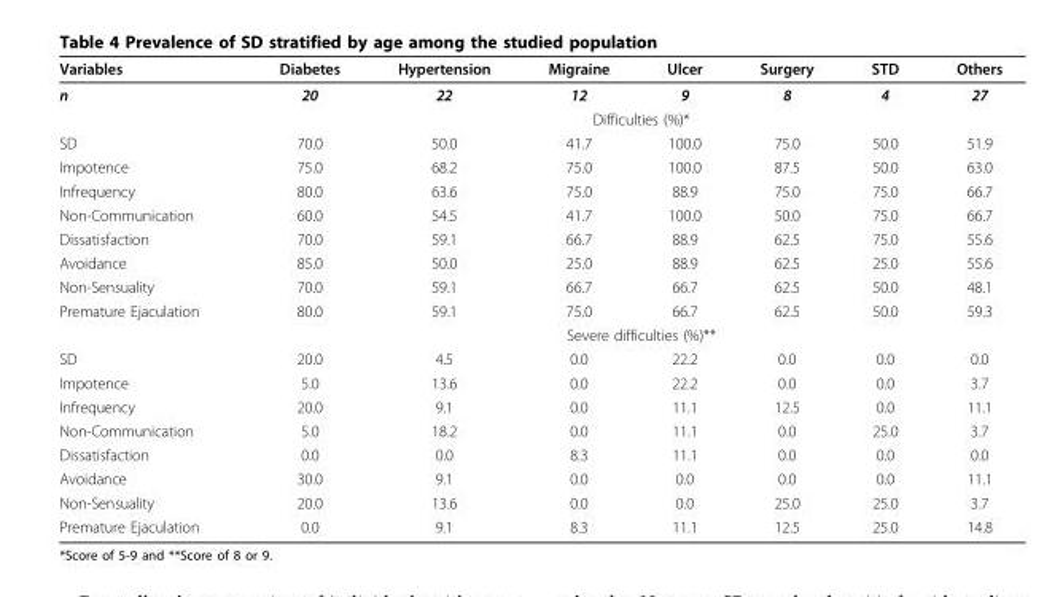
<table><thead><tr><td>Variables</td><td>Diabetes</td><td>Hypertension</td><td>Migraine</td><td>Ulcer</td><td>Surgery</td><td>STD</td><td>Others</td></tr></thead><tbody><tr><td rowspan="2">n</td><td>20</td><td>22</td><td>12</td><td>9</td><td>8</td><td>4</td><td>27</td></tr><tr><td colspan="7">Difficulties (%)*</td></tr><tr><td>SD</td><td>70.0</td><td>50.0</td><td>41.7</td><td>100.0</td><td>75.0</td><td>50.0</td><td>51.9</td></tr><tr><td>Impotence</td><td>75.0</td><td>68.2</td><td>75.0</td><td>100.0</td><td>87.5</td><td>50.0</td><td>63.0</td></tr><tr><td>Infrequency</td><td>80.0</td><td>63.6</td><td>75.0</td><td>88.9</td><td>75.0</td><td>75.0</td><td>66.7</td></tr><tr><td>Non-Communication</td><td>60.0</td><td>54.5</td><td>41.7</td><td>100.0</td><td>50.0</td><td>75.0</td><td>66.7</td></tr><tr><td>Dissatisfaction</td><td>70.0</td><td>59.1</td><td>66.7</td><td>88.9</td><td>62.5</td><td>75.0</td><td>55.6</td></tr><tr><td>Avoidance</td><td>85.0</td><td>50.0</td><td>25.0</td><td>88.9</td><td>62.5</td><td>25.0</td><td>55.6</td></tr><tr><td>Non-Sensuality</td><td>70.0</td><td>59.1</td><td>66.7</td><td>66.7</td><td>62.5</td><td>50.0</td><td>48.1</td></tr><tr><td rowspan="2">Premature Ejaculation</td><td>80.0</td><td>59.1</td><td>75.0</td><td>66.7</td><td>62.5</td><td>50.0</td><td>59.3</td></tr><tr><td colspan="7">Severe difficulties (%)**</td></tr><tr><td>SD</td><td>20.0</td><td>4.5</td><td>0.0</td><td>22.2</td><td>0.0</td><td>0.0</td><td>0.0</td></tr><tr><td>Impotence</td><td>5.0</td><td>13.6</td><td>0.0</td><td>22.2</td><td>0.0</td><td>0.0</td><td>3.7</td></tr><tr><td>Infrequency</td><td>20.0</td><td>9.1</td><td>0.0</td><td>11.1</td><td>12.5</td><td>0.0</td><td>11.1</td></tr><tr><td>Non-Communication</td><td>5.0</td><td>18.2</td><td>0.0</td><td>11.1</td><td>0.0</td><td>25.0</td><td>3.7</td></tr><tr><td>Dissatisfaction</td><td>0.0</td><td>0.0</td><td>8.3</td><td>11.1</td><td>0.0</td><td>0.0</td><td>0.0</td></tr><tr><td>Avoidance</td><td>30.0</td><td>9.1</td><td>0.0</td><td>0.0</td><td>0.0</td><td>0.0</td><td>11.1</td></tr><tr><td>Non-Sensuality</td><td>20.0</td><td>13.6</td><td>0.0</td><td>0.0</td><td>25.0</td><td>25.0</td><td>3.7</td></tr><tr><td>Premature Ejaculation</td><td>0.0</td><td>9.1</td><td>8.3</td><td>11.1</td><td>12.5</td><td>25.0</td><td>14.8</td></tr></tbody></table>